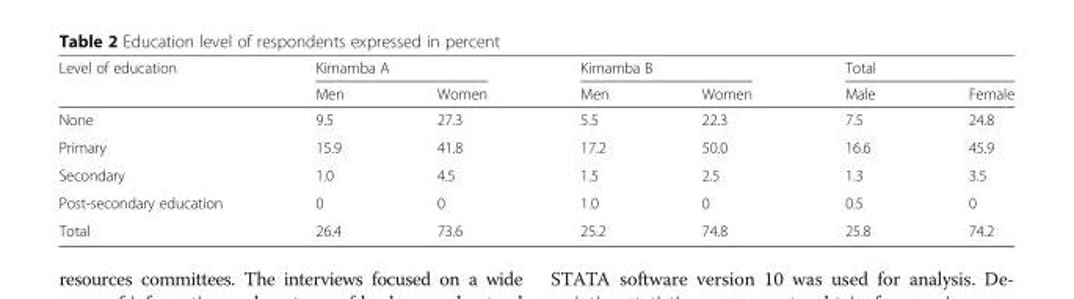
<table><thead><tr><td rowspan="2">Level of education</td><td colspan="2">Kimamba A</td><td colspan="2">Kimamba B</td><td colspan="2">Total</td></tr><tr><td>Men</td><td>Women</td><td>Men</td><td>Women</td><td>Male</td><td>Female</td></tr></thead><tbody><tr><td>None</td><td>9.5</td><td>27.3</td><td>5.5</td><td>22.3</td><td>7.5</td><td>24.8</td></tr><tr><td>Primary</td><td>15.9</td><td>41.8</td><td>17.2</td><td>50.0</td><td>16.6</td><td>45.9</td></tr><tr><td>Secondary</td><td>1.0</td><td>4.5</td><td>1.5</td><td>2.5</td><td>1.3</td><td>3.5</td></tr><tr><td>Post-secondary education</td><td>0</td><td>0</td><td>1.0</td><td>0</td><td>0.5</td><td>0</td></tr><tr><td>Total</td><td>26.4</td><td>73.6</td><td>25.2</td><td>74.8</td><td>25.8</td><td>74.2</td></tr></tbody></table>